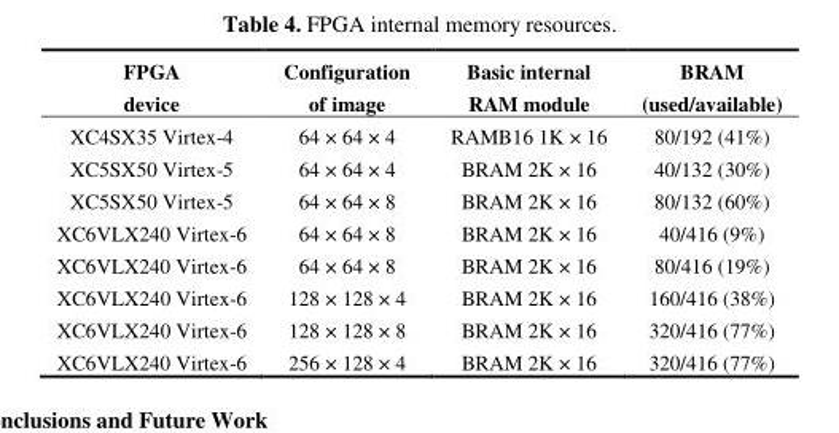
<table><thead><tr><td>FPGA device</td><td>Configuration of image</td><td>Basic internal RAM module</td><td>BRAM (used/available)</td></tr></thead><tbody><tr><td>XC4SX35 Virtex-4</td><td>64 × 64 × 4</td><td>RAMB16 1K × 16</td><td>80/192 (41%)</td></tr><tr><td>XC5SX50 Virtex-5</td><td>64 × 64 × 4</td><td>BRAM 2K × 16</td><td>40/132 (30%)</td></tr><tr><td>XC5SX50 Virtex-5</td><td>64 × 64 × 8</td><td>BRAM 2K × 16</td><td>80/132 (60%)</td></tr><tr><td>XC6VLX240 Virtex-6</td><td>64 × 64 × 8</td><td>BRAM 2K × 16</td><td>40/416 (9%)</td></tr><tr><td>XC6VLX240 Virtex-6</td><td>64 × 64 × 8</td><td>BRAM 2K × 16</td><td>80/416 (19%)</td></tr><tr><td>XC6VLX240 Virtex-6</td><td>128 × 128 × 4</td><td>BRAM 2K × 16</td><td>160/416 (38%)</td></tr><tr><td>XC6VLX240 Virtex-6</td><td>128 × 128 × 8</td><td>BRAM 2K × 16</td><td>320/416 (77%)</td></tr><tr><td>XC6VLX240 Virtex-6</td><td>256 × 128 × 4</td><td>BRAM 2K × 16</td><td>320/416 (77%)</td></tr></tbody></table>